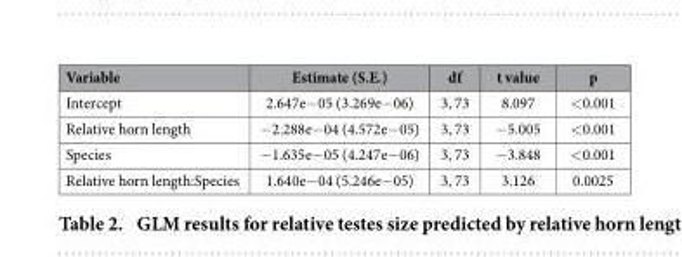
<table><thead><tr><td>Variable</td><td>Estimate (S.E.)</td><td>df</td><td>t value</td><td>p</td></tr></thead><tbody><tr><td>Intercept</td><td>2.647e− 05 (3.269e− 06)</td><td>3, 73</td><td>8.097</td><td>&lt; 0.001</td></tr><tr><td>Relative horn length</td><td>− 2.288e− 04 (4.572e− 05)</td><td>3, 73</td><td>− 5.005</td><td>&lt; 0.001</td></tr><tr><td>Species</td><td>− 1.635e− 05 (4.247e− 06)</td><td>3, 73</td><td>− 3.848</td><td>&lt; 0.001</td></tr><tr><td>Relative horn length:Species</td><td>1.640e− 04 (5.246e− 05)</td><td>3, 73</td><td>3.126</td><td>0.0025</td></tr></tbody></table>